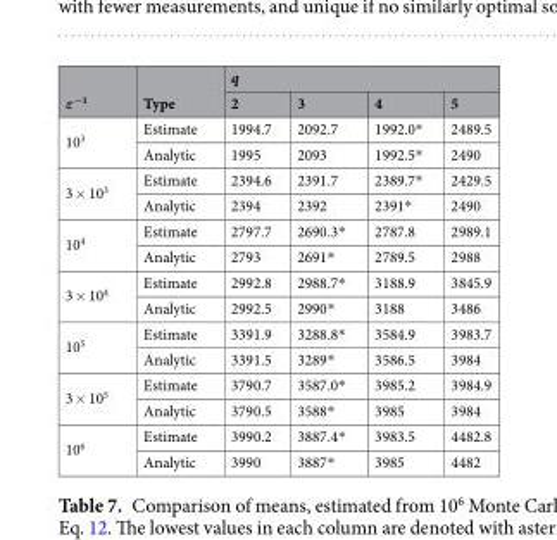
<table><thead><tr><td rowspan="2">ε<sup>−1</sup></td><td rowspan="2">Type</td><td colspan="4">q</td></tr><tr><td>2</td><td>3</td><td>4</td><td>5</td></tr></thead><tbody><tr><td rowspan="2">10<sup>3</sup></td><td>Estimate</td><td>1994.7</td><td>2092.7</td><td>1992.0*</td><td>2489.5</td></tr><tr><td>Analytic</td><td>1995</td><td>2093</td><td>1992.5*</td><td>2490</td></tr><tr><td rowspan="2">3 × 10<sup>3</sup></td><td>Estimate</td><td>2394.6</td><td>2391.7</td><td>2389.7*</td><td>2429.5</td></tr><tr><td>Analytic</td><td>2394</td><td>2392</td><td>2391*</td><td>2490</td></tr><tr><td rowspan="2">10<sup>4</sup></td><td>Estimate</td><td>2797.7</td><td>2690.3*</td><td>2787.8</td><td>2989.1</td></tr><tr><td>Analytic</td><td>2793</td><td>2691*</td><td>2789.5</td><td>2988</td></tr><tr><td rowspan="2">3 × 10<sup>4</sup></td><td>Estimate</td><td>2992.8</td><td>2988.7*</td><td>3188.9</td><td>3845.9</td></tr><tr><td>Analytic</td><td>2992.5</td><td>2990*</td><td>3188</td><td>3486</td></tr><tr><td rowspan="2">10<sup>5</sup></td><td>Estimate</td><td>3391.9</td><td>3288.8*</td><td>3584.9</td><td>3983.7</td></tr><tr><td>Analytic</td><td>3391.5</td><td>3289*</td><td>3586.5</td><td>3984</td></tr><tr><td rowspan="2">3 × 10<sup>5</sup></td><td>Estimate</td><td>3790.7</td><td>3587.0*</td><td>3985.2</td><td>3984.9</td></tr><tr><td>Analytic</td><td>3790.5</td><td>3588*</td><td>3985</td><td>3984</td></tr><tr><td rowspan="2">10<sup>6</sup></td><td>Estimate</td><td>3990.2</td><td>3887.4*</td><td>3983.5</td><td>4482.8</td></tr><tr><td>Analytic</td><td>3990</td><td>3887*</td><td>3985</td><td>4482</td></tr></tbody></table>